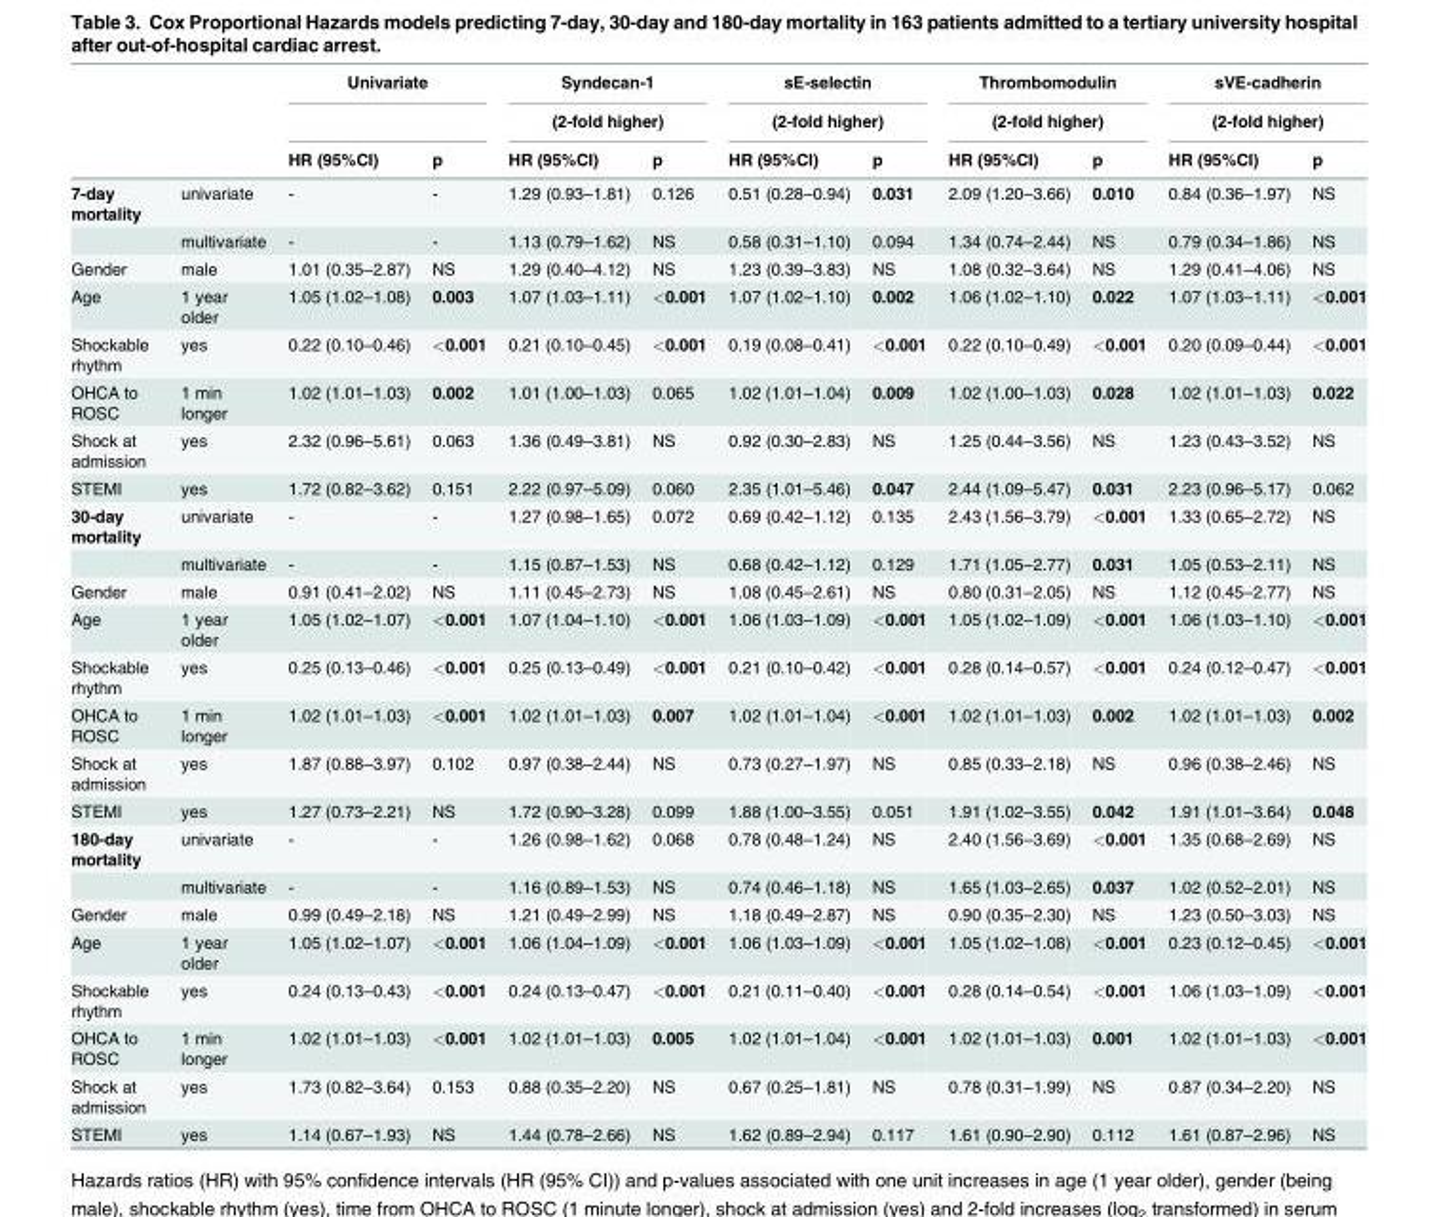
<table><thead><tr><td rowspan="3"></td><td rowspan="3"></td><td colspan="2">Univariate</td><td rowspan="2" colspan="2">Syndecan-1 (2-fold higher)</td><td rowspan="2" colspan="2">sE-selectin (2-fold higher)</td><td rowspan="2" colspan="2">Thrombomodulin (2-fold higher)</td><td rowspan="2" colspan="2">sVE-cadherin (2-fold higher)</td></tr><tr><td rowspan="2">HR (95%CI)</td><td rowspan="2">p</td></tr><tr><td>HR (95%CI)</td><td>p</td><td>HR (95%CI)</td><td>p</td><td>HR (95%CI)</td><td>p</td><td>HR (95%CI)</td><td>p</td></tr></thead><tbody><tr><td rowspan="2">7-day mortality</td><td>univariate</td><td>-</td><td>-</td><td>1.29 (0.93–1.81)</td><td>0.126</td><td>0.51 (0.28–0.94)</td><td>0.031</td><td>2.09 (1.20–3.66)</td><td>0.010</td><td>0.84 (0.36–1.97)</td><td>NS</td></tr><tr><td>multivariate</td><td>-</td><td>-</td><td>1.13 (0.79–1.62)</td><td>NS</td><td>0.58 (0.31–1.10)</td><td>0.094</td><td>1.34 (0.74–2.44)</td><td>NS</td><td>0.79 (0.34–1.86)</td><td>NS</td></tr><tr><td>Gender</td><td>male</td><td>1.01 (0.35–2.87)</td><td>NS</td><td>1.29 (0.40–4.12)</td><td>NS</td><td>1.23 (0.39–3.83)</td><td>NS</td><td>1.08 (0.32–3.64)</td><td>NS</td><td>1.29 (0.41–4.06)</td><td>NS</td></tr><tr><td>Age</td><td>1 year older</td><td>1.05 (1.02–1.08)</td><td>0.003</td><td>1.07 (1.03–1.11)</td><td>&lt;0.001</td><td>1.07 (1.02–1.10)</td><td>0.002</td><td>1.06 (1.02–1.10)</td><td>0.022</td><td>1.07 (1.03–1.11)</td><td>&lt;0.001</td></tr><tr><td>Shockable rhythm</td><td>yes</td><td>0.22 (0.10–0.46)</td><td>&lt;0.001</td><td>0.21 (0.10–0.45)</td><td>&lt;0.001</td><td>0.19 (0.08–0.41)</td><td>&lt;0.001</td><td>0.22 (0.10–0.49)</td><td>&lt;0.001</td><td>0.20 (0.09–0.44)</td><td>&lt;0.001</td></tr><tr><td>OHCA to ROSC</td><td>1 min longer</td><td>1.02 (1.01–1.03)</td><td>0.002</td><td>1.01 (1.00–1.03)</td><td>0.065</td><td>1.02 (1.01–1.04)</td><td>0.009</td><td>1.02 (1.00–1.03)</td><td>0.028</td><td>1.02 (1.01–1.03)</td><td>0.022</td></tr><tr><td>Shock at admission</td><td>yes</td><td>2.32 (0.96–5.61)</td><td>0.063</td><td>1.36 (0.49–3.81)</td><td>NS</td><td>0.92 (0.30–2.83)</td><td>NS</td><td>1.25 (0.44–3.56)</td><td>NS</td><td>1.23 (0.43–3.52)</td><td>NS</td></tr><tr><td>STEMI</td><td>yes</td><td>1.72 (0.82–3.62)</td><td>0.151</td><td>2.22 (0.97–5.09)</td><td>0.060</td><td>2.35 (1.01–5.46)</td><td>0.047</td><td>2.44 (1.09–5.47)</td><td>0.031</td><td>2.23 (0.96–5.17)</td><td>0.062</td></tr><tr><td rowspan="2">30-day mortality</td><td>univariate</td><td>-</td><td>-</td><td>1.27 (0.98–1.65)</td><td>0.072</td><td>0.69 (0.42–1.12)</td><td>0.135</td><td>2.43 (1.56–3.79)</td><td>&lt;0.001</td><td>1.33 (0.65–2.72)</td><td>NS</td></tr><tr><td>multivariate</td><td>-</td><td>-</td><td>1.15 (0.87–1.53)</td><td>NS</td><td>0.68 (0.42–1.12)</td><td>0.129</td><td>1.71 (1.05–2.77)</td><td>0.031</td><td>1.05 (0.53–2.11)</td><td>NS</td></tr><tr><td>Gender</td><td>male</td><td>0.91 (0.41–2.02)</td><td>NS</td><td>1.11 (0.45–2.73)</td><td>NS</td><td>1.08 (0.45–2.61)</td><td>NS</td><td>0.80 (0.31–2.05)</td><td>NS</td><td>1.12 (0.45–2.77)</td><td>NS</td></tr><tr><td>Age</td><td>1 year older</td><td>1.05 (1.02–1.07)</td><td>&lt;0.001</td><td>1.07 (1.04–1.10)</td><td>&lt;0.001</td><td>1.06 (1.03–1.09)</td><td>&lt;0.001</td><td>1.05 (1.02–1.09)</td><td>&lt;0.001</td><td>1.06 (1.03–1.10)</td><td>&lt;0.001</td></tr><tr><td>Shockable rhythm</td><td>yes</td><td>0.25 (0.13–0.46)</td><td>&lt;0.001</td><td>0.25 (0.13–0.49)</td><td>&lt;0.001</td><td>0.21 (0.10–0.42)</td><td>&lt;0.001</td><td>0.28 (0.14–0.57)</td><td>&lt;0.001</td><td>0.24 (0.12–0.47)</td><td>&lt;0.001</td></tr><tr><td>OHCA to ROSC</td><td>1 min longer</td><td>1.02 (1.01–1.03)</td><td>&lt;0.001</td><td>1.02 (1.01–1.03)</td><td>0.007</td><td>1.02 (1.01–1.04)</td><td>&lt;0.001</td><td>1.02 (1.01–1.03)</td><td>0.002</td><td>1.02 (1.01–1.03)</td><td>0.002</td></tr><tr><td>Shock at admission</td><td>yes</td><td>1.87 (0.88–3.97)</td><td>0.102</td><td>0.97 (0.38–2.44)</td><td>NS</td><td>0.73 (0.27–1.97)</td><td>NS</td><td>0.85 (0.33–2.18)</td><td>NS</td><td>0.96 (0.38–2.46)</td><td>NS</td></tr><tr><td>STEMI</td><td>yes</td><td>1.27 (0.73–2.21)</td><td>NS</td><td>1.72 (0.90–3.28)</td><td>0.099</td><td>1.88 (1.00–3.55)</td><td>0.051</td><td>1.91 (1.02–3.55)</td><td>0.042</td><td>1.91 (1.01–3.64)</td><td>0.048</td></tr><tr><td rowspan="2">180-day mortality</td><td>univariate</td><td>-</td><td>-</td><td>1.26 (0.98–1.62)</td><td>0.068</td><td>0.78 (0.48–1.24)</td><td>NS</td><td>2.40 (1.56–3.69)</td><td>&lt;0.001</td><td>1.35 (0.68–2.69)</td><td>NS</td></tr><tr><td>multivariate</td><td>-</td><td>-</td><td>1.16 (0.89–1.53)</td><td>NS</td><td>0.74 (0.46–1.18)</td><td>NS</td><td>1.65 (1.03–2.65)</td><td>0.037</td><td>1.02 (0.52–2.01)</td><td>NS</td></tr><tr><td>Gender</td><td>male</td><td>0.99 (0.49–2.18)</td><td>NS</td><td>1.21 (0.49–2.99)</td><td>NS</td><td>1.18 (0.49–2.87)</td><td>NS</td><td>0.90 (0.35–2.30)</td><td>NS</td><td>1.23 (0.50–3.03)</td><td>NS</td></tr><tr><td>Age</td><td>1 year older</td><td>1.05 (1.02–1.07)</td><td>&lt;0.001</td><td>1.06 (1.04–1.09)</td><td>&lt;0.001</td><td>1.06 (1.03–1.09)</td><td>&lt;0.001</td><td>1.05 (1.02–1.08)</td><td>&lt;0.001</td><td>0.23 (0.12–0.45)</td><td>&lt;0.001</td></tr><tr><td>Shockable rhythm</td><td>yes</td><td>0.24 (0.13–0.43)</td><td>&lt;0.001</td><td>0.24 (0.13–0.47)</td><td>&lt;0.001</td><td>0.21 (0.11–0.40)</td><td>&lt;0.001</td><td>0.28 (0.14–0.54)</td><td>&lt;0.001</td><td>1.06 (1.03–1.09)</td><td>&lt;0.001</td></tr><tr><td>OHCA to ROSC</td><td>1 min longer</td><td>1.02 (1.01–1.03)</td><td>&lt;0.001</td><td>1.02 (1.01–1.03)</td><td>0.005</td><td>1.02 (1.01–1.04)</td><td>&lt;0.001</td><td>1.02 (1.01–1.03)</td><td>0.001</td><td>1.02 (1.01–1.03)</td><td>&lt;0.001</td></tr><tr><td>Shock at admission</td><td>yes</td><td>1.73 (0.82–3.64)</td><td>0.153</td><td>0.88 (0.35–2.20)</td><td>NS</td><td>0.67 (0.25–1.81)</td><td>NS</td><td>0.78 (0.31–1.99)</td><td>NS</td><td>0.87 (0.34–2.20)</td><td>NS</td></tr><tr><td>STEMI</td><td>yes</td><td>1.14 (0.67–1.93)</td><td>NS</td><td>1.44 (0.78–2.66)</td><td>NS</td><td>1.62 (0.89–2.94)</td><td>0.117</td><td>1.61 (0.90–2.90)</td><td>0.112</td><td>1.61 (0.87–2.96)</td><td>NS</td></tr></tbody></table>